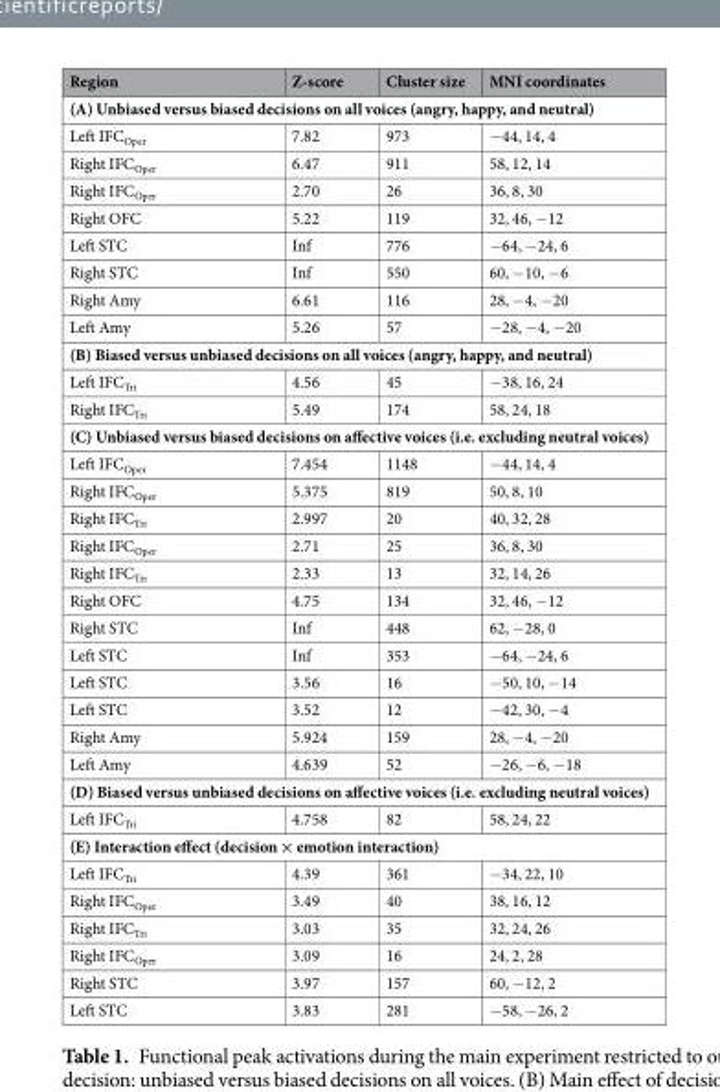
<table><thead><tr><td>Region</td><td>Z-score</td><td>Cluster size</td><td>MNI coordinates</td></tr></thead><tbody><tr><td colspan="4">(A) Unbiased versus biased decisions on all voices (angry, happy, and neutral)</td></tr><tr><td>Left IFC<sub>Oper</sub></td><td>7.82</td><td>973</td><td>−44, 14, 4</td></tr><tr><td>Right IFC<sub>Oper</sub></td><td>6.47</td><td>911</td><td>58, 12, 14</td></tr><tr><td>Right IFC<sub>Oper</sub></td><td>2.70</td><td>26</td><td>36, 8, 30</td></tr><tr><td>Right OFC</td><td>5.22</td><td>119</td><td>32, 46, −12</td></tr><tr><td>Left STC</td><td>Inf</td><td>776</td><td>−64, −24, 6</td></tr><tr><td>Right STC</td><td>Inf</td><td>550</td><td>60, −10, −6</td></tr><tr><td>Right Amy</td><td>6.61</td><td>116</td><td>28, −4, −20</td></tr><tr><td>Left Amy</td><td>5.26</td><td>57</td><td>−28, −4, −20</td></tr><tr><td colspan="4">(B) Biased versus unbiased decisions on all voices (angry, happy, and neutral)</td></tr><tr><td>Left IFC<sub>Tri</sub></td><td>4.56</td><td>45</td><td>−38, 16, 24</td></tr><tr><td>Right IFC<sub>Tri</sub></td><td>5.49</td><td>174</td><td>58, 24, 18</td></tr><tr><td colspan="4">(C) Unbiased versus biased decisions on affective voices (i.e. excluding neutral voices)</td></tr><tr><td>Left IFC<sub>Oper</sub></td><td>7.454</td><td>1148</td><td>−44, 14, 4</td></tr><tr><td>Right IFC<sub>Oper</sub></td><td>5.375</td><td>819</td><td>50, 8, 10</td></tr><tr><td>Right IFC<sub>Tri</sub></td><td>2.997</td><td>20</td><td>40, 32, 28</td></tr><tr><td>Right IFC<sub>Oper</sub></td><td>2.71</td><td>25</td><td>36, 8, 30</td></tr><tr><td>Right IFC<sub>Tri</sub></td><td>2.33</td><td>13</td><td>32, 14, 26</td></tr><tr><td>Right OFC</td><td>4.75</td><td>134</td><td>32, 46, −12</td></tr><tr><td>Right STC</td><td>Inf</td><td>448</td><td>62, −28, 0</td></tr><tr><td>Left STC</td><td>Inf</td><td>353</td><td>−64, −24, 6</td></tr><tr><td>Left STC</td><td>3.56</td><td>16</td><td>−50, 10, −14</td></tr><tr><td>Left STC</td><td>3.52</td><td>12</td><td>−42, 30, −4</td></tr><tr><td>Right Amy</td><td>5.924</td><td>159</td><td>28, −4, −20</td></tr><tr><td>Left Amy</td><td>4.639</td><td>52</td><td>−26, −6, −18</td></tr><tr><td colspan="4">(D) Biased versus unbiased decisions on affective voices (i.e. excluding neutral voices)</td></tr><tr><td>Left IFC<sub>Tri</sub></td><td>4.758</td><td>82</td><td>58, 24, 22</td></tr><tr><td colspan="4">(E) Interaction effect (decision × emotion interaction)</td></tr><tr><td>Left IFC<sub>Tri</sub></td><td>4.39</td><td>361</td><td>−34, 22, 10</td></tr><tr><td>Right IFC<sub>Oper</sub></td><td>3.49</td><td>40</td><td>38, 16, 12</td></tr><tr><td>Right IFC<sub>Tri</sub></td><td>3.03</td><td>35</td><td>32, 24, 26</td></tr><tr><td>Right IFC<sub>Oper</sub></td><td>3.09</td><td>16</td><td>24, 2, 28</td></tr><tr><td>Right STC</td><td>3.97</td><td>157</td><td>60, −12, 2</td></tr><tr><td>Left STC</td><td>3.83</td><td>281</td><td>−58, −26, 2</td></tr></tbody></table>